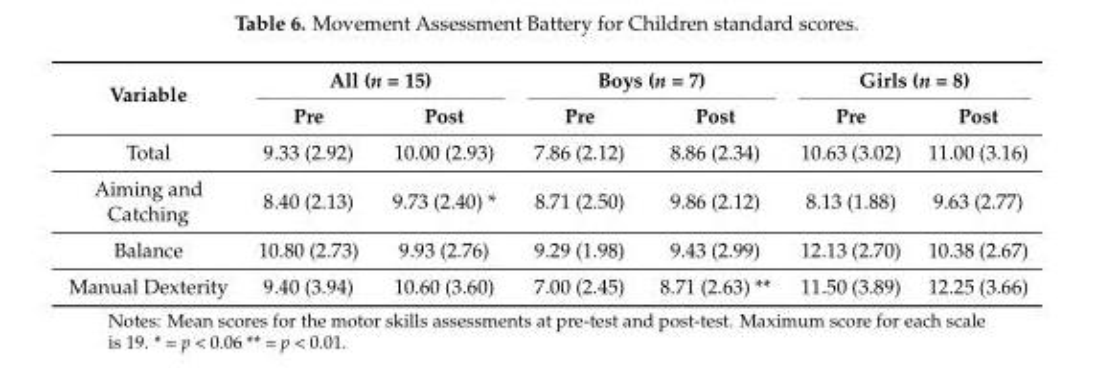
<table><thead><tr><td rowspan="2">Variable</td><td colspan="2">All (n = 15)</td><td colspan="2">Boys (n = 7)</td><td colspan="2">Girls (n = 8)</td></tr><tr><td>Pre</td><td>Post</td><td>Pre</td><td>Post</td><td>Pre</td><td>Post</td></tr></thead><tbody><tr><td>Total</td><td>9.33 (2.92)</td><td>10.00 (2.93)</td><td>7.86 (2.12)</td><td>8.86 (2.34)</td><td>10.63 (3.02)</td><td>11.00 (3.16)</td></tr><tr><td>Aiming and Catching</td><td>8.40 (2.13)</td><td>9.73 (2.40) *</td><td>8.71 (2.50)</td><td>9.86 (2.12)</td><td>8.13 (1.88)</td><td>9.63 (2.77)</td></tr><tr><td>Balance</td><td>10.80 (2.73)</td><td>9.93 (2.76)</td><td>9.29 (1.98)</td><td>9.43 (2.99)</td><td>12.13 (2.70)</td><td>10.38 (2.67)</td></tr><tr><td>Manual Dexterity</td><td>9.40 (3.94)</td><td>10.60 (3.60)</td><td>7.00 (2.45)</td><td>8.71 (2.63) **</td><td>11.50 (3.89)</td><td>12.25 (3.66)</td></tr></tbody></table>